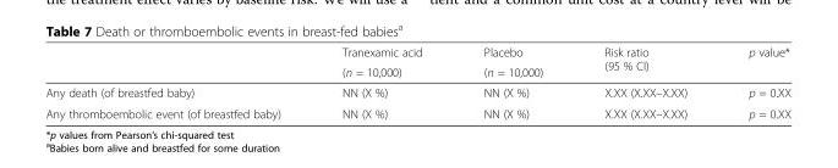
<table><thead><tr><td rowspan="2"></td><td rowspan="2">Tranexamic acid (n = 10,000)</td><td rowspan="2">Placebo (n = 10,000)</td><td rowspan="2">Risk ratio (95 % CI)</td><td rowspan="2">p value*</td></tr><tr></tr></thead><tbody><tr><td>Any death (of breastfed baby)</td><td>NN (X %)</td><td>NN (X %)</td><td>X.XX (X.XX–X.XX)</td><td>p = 0.XX</td></tr><tr><td>Any thromboembolic event (of breastfed baby)</td><td>NN (X %)</td><td>NN (X %)</td><td>X.XX (X.XX–X.XX)</td><td>p = 0.XX</td></tr></tbody></table>